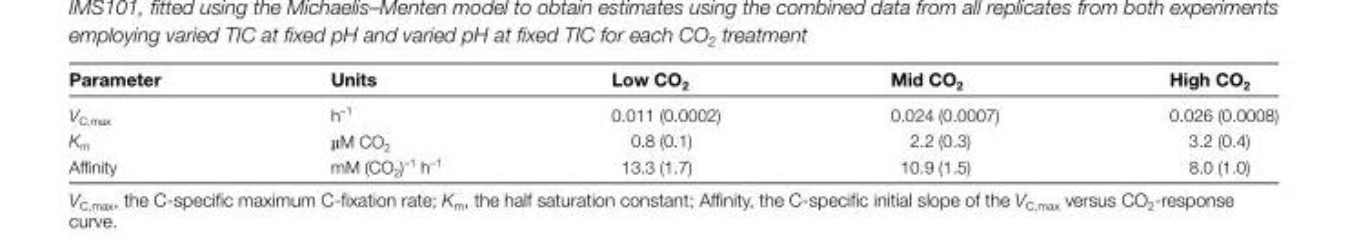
<table><thead><tr><td>Parameter</td><td>Units</td><td>Low CO<sub>2</sub></td><td>Mid CO<sub>2</sub></td><td>High CO<sub>2</sub></td></tr></thead><tbody><tr><td>V<sub>C,max</sub></td><td>h<sup>–1</sup></td><td>0.011 (0.0002)</td><td>0.024 (0.0007)</td><td>0.026 (0.0008)</td></tr><tr><td>K<sub>m</sub></td><td>µM CO<sub>2</sub></td><td>0.8 (0.1)</td><td>2.2 (0.3)</td><td>3.2 (0.4)</td></tr><tr><td>Affinity</td><td>mM (CO<sub>2</sub>)<sup>–1</sup> h<sup>–1</sup></td><td>13.3 (1.7)</td><td>10.9 (1.5)</td><td>8.0 (1.0)</td></tr></tbody></table>